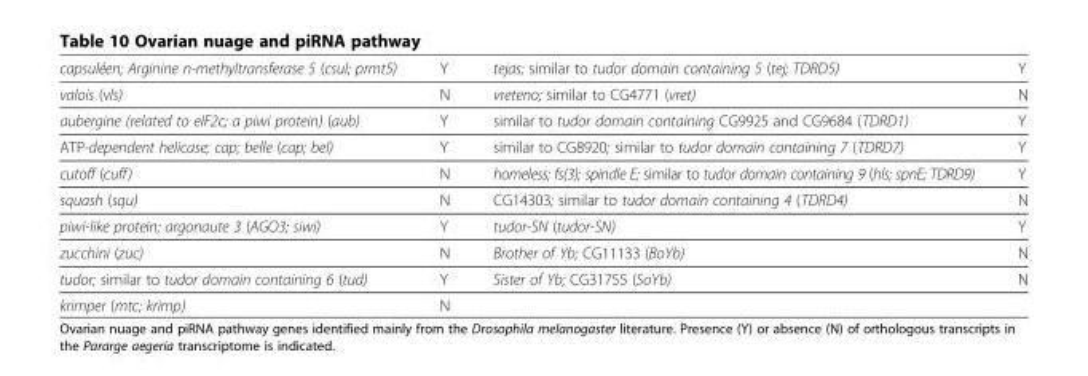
<table><tbody><tr><td>capsuléen; Arginine n-methyltransferase 5 (csul; prmt5)</td><td>Y</td><td>tejas; similar to tudor domain containing 5 (tej; TDRD5)</td><td>Y</td></tr><tr><td>valois (vls)</td><td>N</td><td>vreteno; similar to CG4771 (vret)</td><td>N</td></tr><tr><td>aubergine (related to eIF2c; a piwi protein) (aub)</td><td>Y</td><td>similar to tudor domain containing CG9925 and CG9684 (TDRD1)</td><td>Y</td></tr><tr><td>ATP-dependent helicase; cap; belle (cap; bel)</td><td>Y</td><td>similar to CG8920; similar to tudor domain containing 7 (TDRD7)</td><td>Y</td></tr><tr><td>cutoff (cuff)</td><td>N</td><td>homeless; fs(3); spindle E; similar to tudor domain containing 9 (hls; spnE; TDRD9)</td><td>Y</td></tr><tr><td>squash (squ)</td><td>N</td><td>CG14303; similar to tudor domain containing 4 (TDRD4)</td><td>N</td></tr><tr><td>piwi-like protein; argonaute 3 (AGO3; siwi)</td><td>Y</td><td>tudor-SN (tudor-SN)</td><td>Y</td></tr><tr><td>zucchini (zuc)</td><td>N</td><td>Brother of Yb; CG11133 (BoYb)</td><td>N</td></tr><tr><td>tudor; similar to tudor domain containing 6 (tud)</td><td>Y</td><td>Sister of Yb; CG31755 (SoYb)</td><td>N</td></tr><tr><td>krimper (mtc; krimp)</td><td>N</td><td></td><td></td></tr></tbody></table>